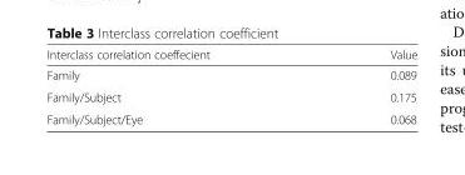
<table><thead><tr><td>Interclass correlation coeffecient</td><td>Value</td></tr></thead><tbody><tr><td>Family</td><td>0.089</td></tr><tr><td>Family/Subject</td><td>0.175</td></tr><tr><td>Family/Subject/Eye</td><td>0.068</td></tr></tbody></table>